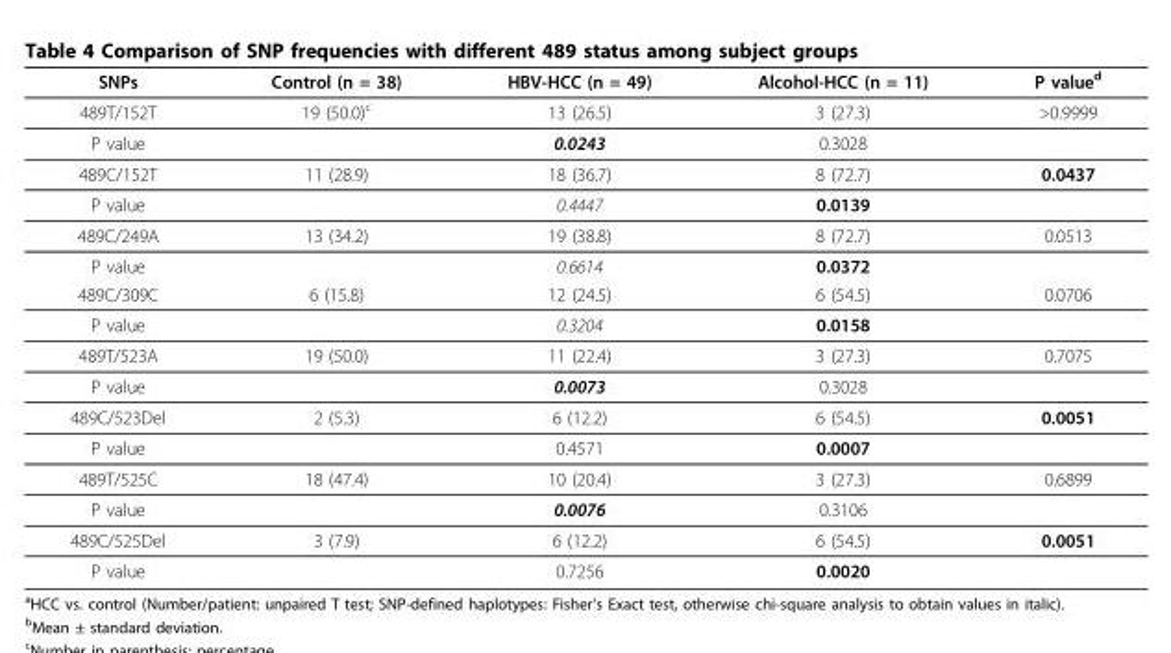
<table><thead><tr><td>SNPs</td><td>Control (n = 38)</td><td>HBV-HCC (n = 49)</td><td>Alcohol-HCC (n = 11)</td><td>P value<sup>d</sup></td></tr></thead><tbody><tr><td>489T/152T</td><td>19 (50.0)<sup>c</sup></td><td>13 (26.5)</td><td>3 (27.3)</td><td>&gt;0.9999</td></tr><tr><td>P value</td><td></td><td>0.0243</td><td>0.3028</td><td></td></tr><tr><td>489C/152T</td><td>11 (28.9)</td><td>18 (36.7)</td><td>8 (72.7)</td><td>0.0437</td></tr><tr><td>P value</td><td></td><td>0.4447</td><td>0.0139</td><td></td></tr><tr><td>489C/249A</td><td>13 (34.2)</td><td>19 (38.8)</td><td>8 (72.7)</td><td>0.0513</td></tr><tr><td>P value</td><td></td><td>0.6614</td><td>0.0372</td><td></td></tr><tr><td>489C/309C</td><td>6 (15.8)</td><td>12 (24.5)</td><td>6 (54.5)</td><td>0.0706</td></tr><tr><td>P value</td><td></td><td>0.3204</td><td>0.0158</td><td></td></tr><tr><td>489T/523A</td><td>19 (50.0)</td><td>11 (22.4)</td><td>3 (27.3)</td><td>0.7075</td></tr><tr><td>P value</td><td></td><td>0.0073</td><td>0.3028</td><td></td></tr><tr><td>489C/523Del</td><td>2 (5.3)</td><td>6 (12.2)</td><td>6 (54.5)</td><td>0.0051</td></tr><tr><td>P value</td><td></td><td>0.4571</td><td>0.0007</td><td></td></tr><tr><td>489T/525C</td><td>18 (47.4)</td><td>10 (20.4)</td><td>3 (27.3)</td><td>0.6899</td></tr><tr><td>P value</td><td></td><td>0.0076</td><td>0.3106</td><td></td></tr><tr><td>489C/525Del</td><td>3 (7.9)</td><td>6 (12.2)</td><td>6 (54.5)</td><td>0.0051</td></tr><tr><td>P value</td><td></td><td>0.7256</td><td>0.0020</td><td></td></tr></tbody></table>